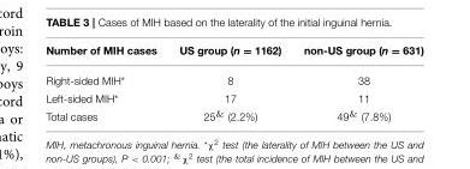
<table><thead><tr><td>Number of MIH cases</td><td>US group (n = 1162)</td><td>non-US group (n = 631)</td></tr></thead><tbody><tr><td>Right-sided MIH*</td><td>8</td><td>38</td></tr><tr><td>Left-sided MIH*</td><td>17</td><td>11</td></tr><tr><td>Total cases</td><td>25<sup>&amp;</sup> (2.2%)</td><td>49<sup>&amp;</sup> (7.8%)</td></tr></tbody></table>